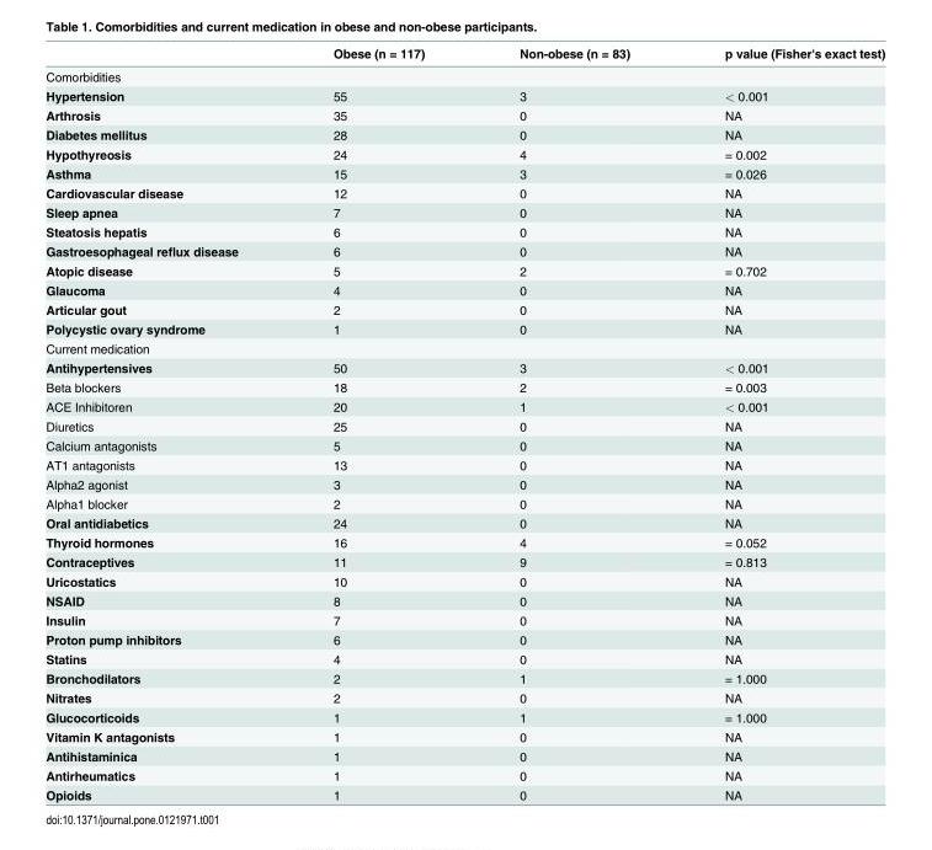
<table><thead><tr><td></td><td>Obese (n = 117)</td><td>Non-obese (n = 83)</td><td>p value (Fisher&#x27;s exact test)</td></tr></thead><tbody><tr><td colspan="4">Comorbidities</td></tr><tr><td>Hypertension</td><td>55</td><td>3</td><td>&lt; 0.001</td></tr><tr><td>Arthrosis</td><td>35</td><td>0</td><td>NA</td></tr><tr><td>Diabetes mellitus</td><td>28</td><td>0</td><td>NA</td></tr><tr><td>Hypothyreosis</td><td>24</td><td>4</td><td>= 0.002</td></tr><tr><td>Asthma</td><td>15</td><td>3</td><td>= 0.026</td></tr><tr><td>Cardiovascular disease</td><td>12</td><td>0</td><td>NA</td></tr><tr><td>Sleep apnea</td><td>7</td><td>0</td><td>NA</td></tr><tr><td>Steatosis hepatis</td><td>6</td><td>0</td><td>NA</td></tr><tr><td>Gastroesophageal reflux disease</td><td>6</td><td>0</td><td>NA</td></tr><tr><td>Atopic disease</td><td>5</td><td>2</td><td>= 0.702</td></tr><tr><td>Glaucoma</td><td>4</td><td>0</td><td>NA</td></tr><tr><td>Articular gout</td><td>2</td><td>0</td><td>NA</td></tr><tr><td>Polycystic ovary syndrome</td><td>1</td><td>0</td><td>NA</td></tr><tr><td colspan="4">Current medication</td></tr><tr><td>Antihypertensives</td><td>50</td><td>3</td><td>&lt; 0.001</td></tr><tr><td>Beta blockers</td><td>18</td><td>2</td><td>= 0.003</td></tr><tr><td>ACE Inhibitoren</td><td>20</td><td>1</td><td>&lt; 0.001</td></tr><tr><td>Diuretics</td><td>25</td><td>0</td><td>NA</td></tr><tr><td>Calcium antagonists</td><td>5</td><td>0</td><td>NA</td></tr><tr><td>AT1 antagonists</td><td>13</td><td>0</td><td>NA</td></tr><tr><td>Alpha2 agonist</td><td>3</td><td>0</td><td>NA</td></tr><tr><td>Alpha1 blocker</td><td>2</td><td>0</td><td>NA</td></tr><tr><td>Oral antidiabetics</td><td>24</td><td>0</td><td>NA</td></tr><tr><td>Thyroid hormones</td><td>16</td><td>4</td><td>= 0.052</td></tr><tr><td>Contraceptives</td><td>11</td><td>9</td><td>= 0.813</td></tr><tr><td>Uricostatics</td><td>10</td><td>0</td><td>NA</td></tr><tr><td>NSAID</td><td>8</td><td>0</td><td>NA</td></tr><tr><td>Insulin</td><td>7</td><td>0</td><td>NA</td></tr><tr><td>Proton pump inhibitors</td><td>6</td><td>0</td><td>NA</td></tr><tr><td>Statins</td><td>4</td><td>0</td><td>NA</td></tr><tr><td>Bronchodilators</td><td>2</td><td>1</td><td>= 1.000</td></tr><tr><td>Nitrates</td><td>2</td><td>0</td><td>NA</td></tr><tr><td>Glucocorticoids</td><td>1</td><td>1</td><td>= 1.000</td></tr><tr><td>Vitamin K antagonists</td><td>1</td><td>0</td><td>NA</td></tr><tr><td>Antihistaminica</td><td>1</td><td>0</td><td>NA</td></tr><tr><td>Antirheumatics</td><td>1</td><td>0</td><td>NA</td></tr><tr><td>Opioids</td><td>1</td><td>0</td><td>NA</td></tr></tbody></table>